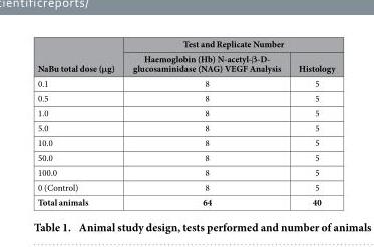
<table><thead><tr><td rowspan="2">NaBu total dose (μg)</td><td colspan="2">Test and Replicate Number</td></tr><tr><td>Haemoglobin (Hb) N-acetyl-β-D- glucosaminidase (NAG) VEGF Analysis</td><td>Histology</td></tr></thead><tbody><tr><td>0.1</td><td>8</td><td>5</td></tr><tr><td>0.5</td><td>8</td><td>5</td></tr><tr><td>1.0</td><td>8</td><td>5</td></tr><tr><td>5.0</td><td>8</td><td>5</td></tr><tr><td>10.0</td><td>8</td><td>5</td></tr><tr><td>50.0</td><td>8</td><td>5</td></tr><tr><td>100.0</td><td>8</td><td>5</td></tr><tr><td>0 (Control)</td><td>8</td><td>5</td></tr><tr><td>Total animals</td><td>64</td><td>40</td></tr></tbody></table>